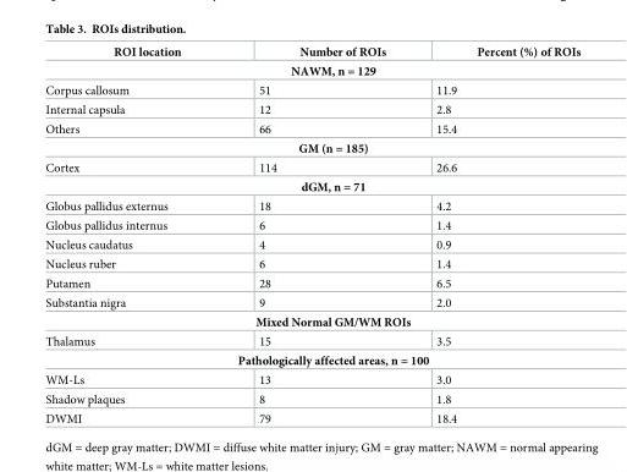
<table><thead><tr><td>ROI location</td><td>Number of ROIs</td><td>Percent (%) of ROIs</td></tr></thead><tbody><tr><td colspan="3">NAWM, n = 129</td></tr><tr><td>Corpus callosum</td><td>51</td><td>11.9</td></tr><tr><td>Internal capsula</td><td>12</td><td>2.8</td></tr><tr><td>Others</td><td>66</td><td>15.4</td></tr><tr><td colspan="3">GM (n = 185)</td></tr><tr><td>Cortex</td><td>114</td><td>26.6</td></tr><tr><td colspan="3">dGM, n = 71</td></tr><tr><td>Globus pallidus externus</td><td>18</td><td>4.2</td></tr><tr><td>Globus pallidus internus</td><td>6</td><td>1.4</td></tr><tr><td>Nucleus caudatus</td><td>4</td><td>0.9</td></tr><tr><td>Nucleus ruber</td><td>6</td><td>1.4</td></tr><tr><td>Putamen</td><td>28</td><td>6.5</td></tr><tr><td>Substantia nigra</td><td>9</td><td>2.0</td></tr><tr><td colspan="3">Mixed Normal GM/WM ROIs</td></tr><tr><td>Thalamus</td><td>15</td><td>3.5</td></tr><tr><td colspan="3">Pathologically affected areas, n = 100</td></tr><tr><td>WM-Ls</td><td>13</td><td>3.0</td></tr><tr><td>Shadow plaques</td><td>8</td><td>1.8</td></tr><tr><td>DWMI</td><td>79</td><td>18.4</td></tr></tbody></table>